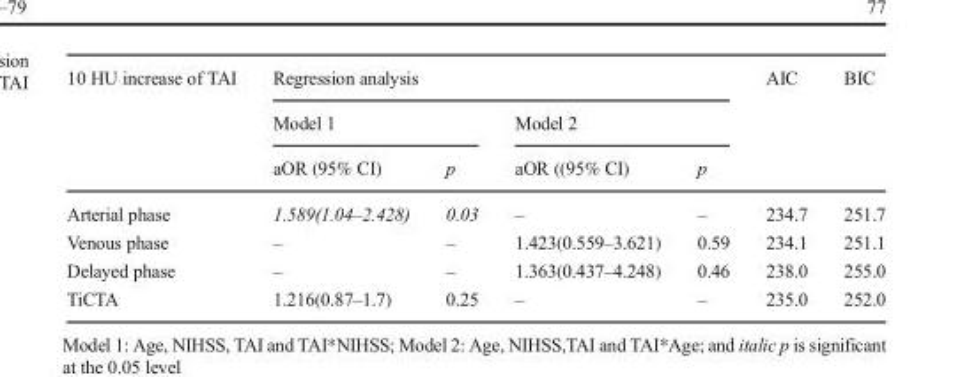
<table><thead><tr><td rowspan="3">10 HU increase of TAI</td><td colspan="4">Regression analysis</td><td rowspan="3">AIC</td><td rowspan="3">BIC</td></tr><tr><td colspan="2">Model 1</td><td colspan="2">Model 2</td></tr><tr><td>aOR (95% CI)</td><td>p</td><td>aOR ((95% CI)</td><td>p</td></tr></thead><tbody><tr><td>Arterial phase</td><td>1.589(1.04–2.428)</td><td>0.03</td><td>–</td><td>–</td><td>234.7</td><td>251.7</td></tr><tr><td>Venous phase</td><td>–</td><td>–</td><td>1.423(0.559–3.621)</td><td>0.59</td><td>234.1</td><td>251.1</td></tr><tr><td>Delayed phase</td><td>–</td><td>–</td><td>1.363(0.437–4.248)</td><td>0.46</td><td>238.0</td><td>255.0</td></tr><tr><td>TiCTA</td><td>1.216(0.87–1.7)</td><td>0.25</td><td>–</td><td>–</td><td>235.0</td><td>252.0</td></tr></tbody></table>